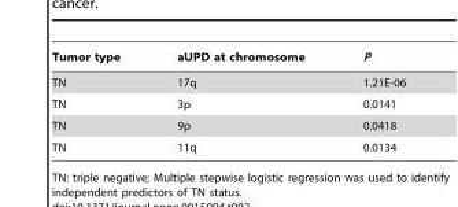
<table><thead><tr><td>Tumor type</td><td>aUPD at chromosome</td><td>P</td></tr></thead><tbody><tr><td>TN</td><td>17q</td><td>1.21E-06</td></tr><tr><td>TN</td><td>3p</td><td>0.0141</td></tr><tr><td>TN</td><td>9p</td><td>0.0418</td></tr><tr><td>TN</td><td>11q</td><td>0.0134</td></tr></tbody></table>